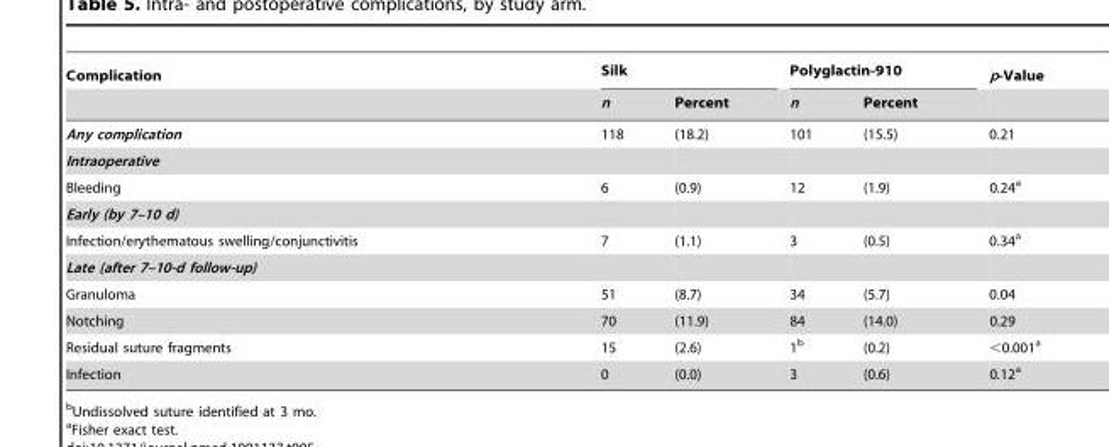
<table><thead><tr><td rowspan="2">Complication</td><td colspan="2">Silk</td><td colspan="2">Polyglactin-910</td><td rowspan="2">p-Value</td></tr><tr><td>n</td><td>Percent</td><td>n</td><td>Percent</td></tr></thead><tbody><tr><td>Any complication</td><td>118</td><td>(18.2)</td><td>101</td><td>(15.5)</td><td>0.21</td></tr><tr><td colspan="6">Intraoperative</td></tr><tr><td>Bleeding</td><td>6</td><td>(0.9)</td><td>12</td><td>(1.9)</td><td>0.24<sup>a</sup></td></tr><tr><td colspan="6">Early (by 7–10 d)</td></tr><tr><td>Infection/erythematous swelling/conjunctivitis</td><td>7</td><td>(1.1)</td><td>3</td><td>(0.5)</td><td>0.34<sup>a</sup></td></tr><tr><td colspan="6">Late (after 7–10-d follow-up)</td></tr><tr><td>Granuloma</td><td>51</td><td>(8.7)</td><td>34</td><td>(5.7)</td><td>0.04</td></tr><tr><td>Notching</td><td>70</td><td>(11.9)</td><td>84</td><td>(14.0)</td><td>0.29</td></tr><tr><td>Residual suture fragments</td><td>15</td><td>(2.6)</td><td>1<sup>b</sup></td><td>(0.2)</td><td>&lt;0.001<sup>a</sup></td></tr><tr><td>Infection</td><td>0</td><td>(0.0)</td><td>3</td><td>(0.6)</td><td>0.12<sup>a</sup></td></tr></tbody></table>